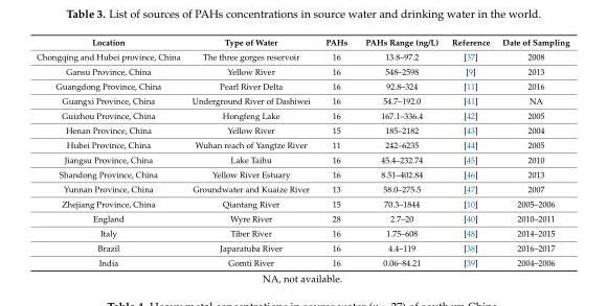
<table><thead><tr><td>Location</td><td>Type of Water</td><td>PAHs</td><td>PAHs Range (ng/L)</td><td>Reference</td><td>Date of Sampling</td></tr></thead><tbody><tr><td>Chongqing and Hubei province, China</td><td>The three gorges reservoir</td><td>16</td><td>13.8–97.2</td><td>[37]</td><td>2008</td></tr><tr><td>Gansu Province, China</td><td>Yellow River</td><td>16</td><td>548–2598</td><td>[9]</td><td>2013</td></tr><tr><td>Guangdong Province, China</td><td>Pearl River Delta</td><td>16</td><td>92.8–324</td><td>[11]</td><td>2016</td></tr><tr><td>Guangxi Province, China</td><td>Underground River of Dashiwei</td><td>16</td><td>54.7–192.0</td><td>[41]</td><td>NA</td></tr><tr><td>Guizhou Province, China</td><td>Hongfeng Lake</td><td>16</td><td>167.1–336.4</td><td>[42]</td><td>2005</td></tr><tr><td>Henan Province, China</td><td>Yellow River</td><td>15</td><td>185–2182</td><td>[43]</td><td>2004</td></tr><tr><td>Hubei Province, China</td><td>Wuhan reach of Yangtze River</td><td>11</td><td>242–6235</td><td>[44]</td><td>2005</td></tr><tr><td>Jiangsu Province, China</td><td>Lake Taihu</td><td>16</td><td>45.4–232.74</td><td>[45]</td><td>2010</td></tr><tr><td>Shandong Province, China</td><td>Yellow River Estuary</td><td>16</td><td>8.51–402.84</td><td>[46]</td><td>2013</td></tr><tr><td>Yunnan Province, China</td><td>Groundwater and Kuaize River</td><td>13</td><td>58.0–275.5</td><td>[47]</td><td>2007</td></tr><tr><td>Zhejiang Province, China</td><td>Qiantang River</td><td>15</td><td>70.3–1844</td><td>[10]</td><td>2005–2006</td></tr><tr><td>England</td><td>Wyre River</td><td>28</td><td>2.7–20</td><td>[40]</td><td>2010–2011</td></tr><tr><td>Italy</td><td>Tiber River</td><td>16</td><td>1.75–608</td><td>[48]</td><td>2014–2015</td></tr><tr><td>Brazil</td><td>Japaratuba River</td><td>16</td><td>4.4–119</td><td>[38]</td><td>2016–2017</td></tr><tr><td>India</td><td>Gomti River</td><td>16</td><td>0.06–84.21</td><td>[39]</td><td>2004–2006</td></tr></tbody></table>